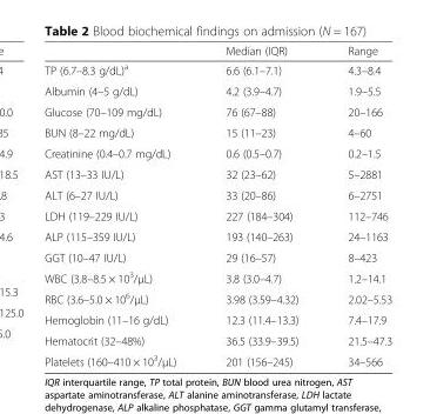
<table><thead><tr><td></td><td>Median (IQR)</td><td>Range</td></tr></thead><tbody><tr><td>TP (6.7–8.3 g/dL)<sup>a</sup></td><td>6.6 (6.1–7.1)</td><td>4.3–8.4</td></tr><tr><td>Albumin (4–5 g/dL)</td><td>4.2 (3.9–4.7)</td><td>1.9–5.5</td></tr><tr><td>Glucose (70–109 mg/dL)</td><td>76 (67–88)</td><td>20–166</td></tr><tr><td>BUN (8–22 mg/dL)</td><td>15 (11–23)</td><td>4–60</td></tr><tr><td>Creatinine (0.4–0.7 mg/dL)</td><td>0.6 (0.5–0.7)</td><td>0.2–1.5</td></tr><tr><td>AST (13–33 IU/L)</td><td>32 (23–62)</td><td>5–2881</td></tr><tr><td>ALT (6–27 IU/L)</td><td>33 (20–86)</td><td>6–2751</td></tr><tr><td>LDH (119–229 IU/L)</td><td>227 (184–304)</td><td>112–746</td></tr><tr><td>ALP (115–359 IU/L)</td><td>193 (140–263)</td><td>24–1163</td></tr><tr><td>GGT (10–47 IU/L)</td><td>29 (16–57)</td><td>8–423</td></tr><tr><td>WBC (3.8–8.5 × 10<sup>3</sup>/μL)</td><td>3.8 (3.0–4.7)</td><td>1.2–14.1</td></tr><tr><td>RBC (3.6–5.0 × 10<sup>6</sup>/μL)</td><td>3.98 (3.59–4.32)</td><td>2.02–5.53</td></tr><tr><td>Hemoglobin (11–16 g/dL)</td><td>12.3 (11.4–13.3)</td><td>7.4–17.9</td></tr><tr><td>Hematocrit (32–48%)</td><td>36.5 (33.9–39.5)</td><td>21.5–47.3</td></tr><tr><td>Platelets (160–410 × 10<sup>3</sup>/μL)</td><td>201 (156–245)</td><td>34–566</td></tr></tbody></table>